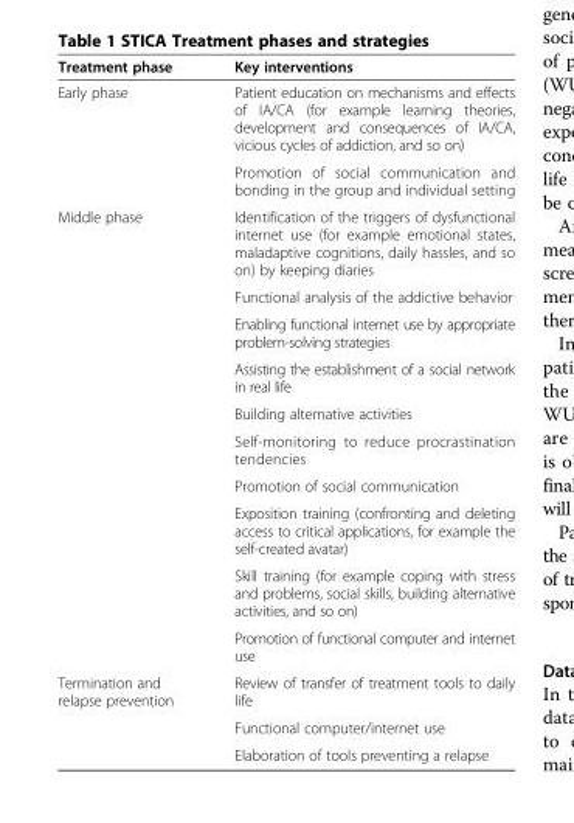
<table><thead><tr><td>Treatment phase</td><td>Key interventions</td></tr></thead><tbody><tr><td rowspan="2">Early phase</td><td>Patient education on mechanisms and effects of IA/CA (for example learning theories, development and consequences of IA/CA, vicious cycles of addiction, and so on)</td></tr><tr><td>Promotion of social communication and bonding in the group and individual setting</td></tr><tr><td rowspan="10">Middle phase</td><td>Identification of the triggers of dysfunctional internet use (for example emotional states, maladaptive cognitions, daily hassles, and so on) by keeping diaries</td></tr><tr><td>Functional analysis of the addictive behavior</td></tr><tr><td>Enabling functional internet use by appropriate problem-solving strategies</td></tr><tr><td>Assisting the establishment of a social network in real life</td></tr><tr><td>Building alternative activities</td></tr><tr><td>Self-monitoring to reduce procrastination tendencies</td></tr><tr><td>Promotion of social communication</td></tr><tr><td>Exposition training (confronting and deleting access to critical applications, for example the self-created avatar)</td></tr><tr><td>Skill training (for example coping with stress and problems, social skills, building alternative activities, and so on)</td></tr><tr><td>Promotion of functional computer and internet use</td></tr><tr><td rowspan="3">Termination and relapse prevention</td><td>Review of transfer of treatment tools to daily life</td></tr><tr><td>Functional computer/internet use</td></tr><tr><td>Elaboration of tools preventing a relapse</td></tr></tbody></table>